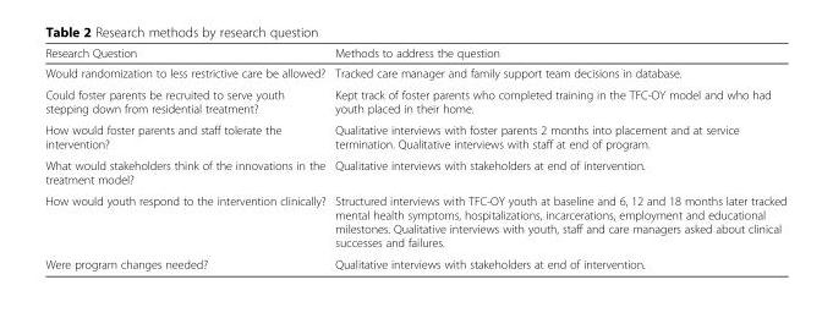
<table><thead><tr><td>Research Question</td><td>Methods to address the question</td></tr></thead><tbody><tr><td>Would randomization to less restrictive care be allowed?</td><td>Tracked care manager and family support team decisions in database.</td></tr><tr><td>Could foster parents be recruited to serve youth stepping down from residential treatment?</td><td>Kept track of foster parents who completed training in the TFC-OY model and who had youth placed in their home.</td></tr><tr><td>How would foster parents and staff tolerate the intervention?</td><td>Qualitative interviews with foster parents 2 months into placement and at service termination. Qualitative interviews with staff at end of program.</td></tr><tr><td>What would stakeholders think of the innovations in the treatment model?</td><td>Qualitative interviews with stakeholders at end of intervention.</td></tr><tr><td>How would youth respond to the intervention clinically?</td><td>Structured interviews with TFC-OY youth at baseline and 6, 12 and 18 months later tracked mental health symptoms, hospitalizations, incarcerations, employment and educational milestones. Qualitative interviews with youth, staff and care managers asked about clinical successes and failures.</td></tr><tr><td>Were program changes needed?</td><td>Qualitative interviews with stakeholders at end of intervention.</td></tr></tbody></table>